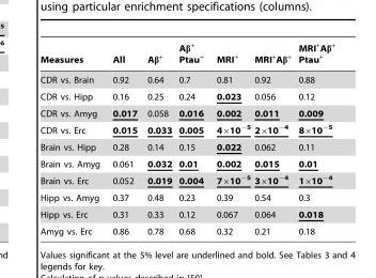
<table><thead><tr><td>Measures</td><td>All</td><td>Aβ<sup>+</sup></td><td>Aβ<sup>+</sup> Ptau<sup>+</sup></td><td>MRI<sup>+</sup></td><td>MRI<sup>+</sup>Aβ<sup>+</sup></td><td>MRI<sup>+</sup>Aβ<sup>+</sup> Ptau<sup>+</sup></td></tr></thead><tbody><tr><td>CDR vs. Brain</td><td>0.92</td><td>0.64</td><td>0.7</td><td>0.81</td><td>0.92</td><td>0.88</td></tr><tr><td>CDR vs. Hipp</td><td>0.16</td><td>0.25</td><td>0.24</td><td>0.023</td><td>0.056</td><td>0.12</td></tr><tr><td>CDR vs. Amyg</td><td>0.017</td><td>0.058</td><td>0.016</td><td>0.002</td><td>0.011</td><td>0.009</td></tr><tr><td>CDR vs. Erc</td><td>0.015</td><td>0.033</td><td>0.005</td><td>4×10<sup>−5</sup></td><td>2×10<sup>−4</sup></td><td>8×10<sup>−5</sup></td></tr><tr><td>Brain vs. Hipp</td><td>0.28</td><td>0.14</td><td>0.15</td><td>0.022</td><td>0.062</td><td>0.11</td></tr><tr><td>Brain vs. Amyg</td><td>0.061</td><td>0.032</td><td>0.01</td><td>0.002</td><td>0.015</td><td>0.01</td></tr><tr><td>Brain vs. Erc</td><td>0.052</td><td>0.019</td><td>0.004</td><td>7×10<sup>−5</sup></td><td>3×10<sup>−4</sup></td><td>1×10<sup>−4</sup></td></tr><tr><td>Hipp vs. Amyg</td><td>0.37</td><td>0.48</td><td>0.23</td><td>0.39</td><td>0.54</td><td>0.3</td></tr><tr><td>Hipp vs. Erc</td><td>0.31</td><td>0.33</td><td>0.12</td><td>0.067</td><td>0.064</td><td>0.018</td></tr><tr><td>Amyg vs. Erc</td><td>0.86</td><td>0.78</td><td>0.68</td><td>0.32</td><td>0.21</td><td>0.18</td></tr></tbody></table>